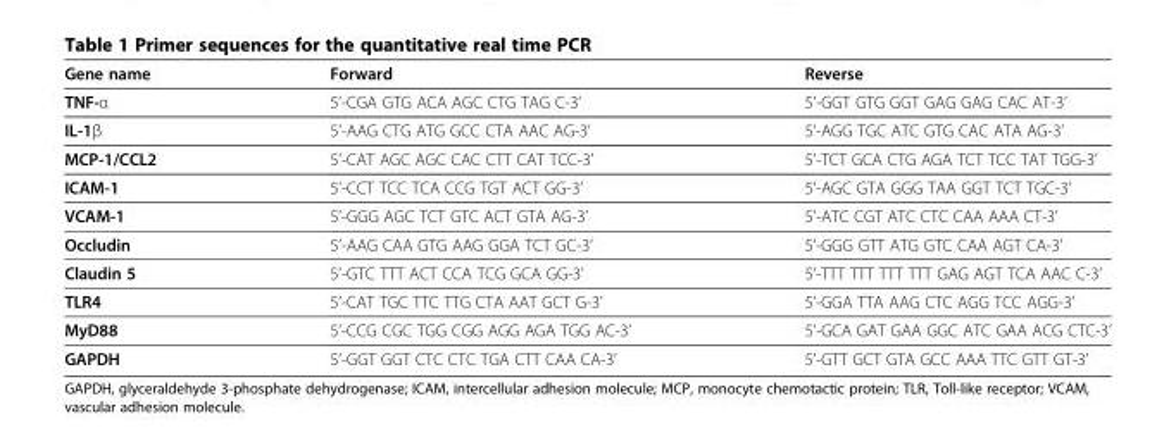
<table><thead><tr><td>Gene name</td><td>Forward</td><td>Reverse</td></tr></thead><tbody><tr><td>TNF-α</td><td>5’-CGA GTG ACA AGC CTG TAG C-3’</td><td>5’-GGT GTG GGT GAG GAG CAC AT-3’</td></tr><tr><td>IL-1β</td><td>5’-AAG CTG ATG GCC CTA AAC AG-3’</td><td>5’-AGG TGC ATC GTG CAC ATA AG-3’</td></tr><tr><td>MCP-1/CCL2</td><td>5’-CAT AGC AGC CAC CTT CAT TCC-3’</td><td>5’-TCT GCA CTG AGA TCT TCC TAT TGG-3’</td></tr><tr><td>ICAM-1</td><td>5’-CCT TCC TCA CCG TGT ACT GG-3’</td><td>5’-AGC GTA GGG TAA GGT TCT TGC-3’</td></tr><tr><td>VCAM-1</td><td>5’-GGG AGC TCT GTC ACT GTA AG-3’</td><td>5’-ATC CGT ATC CTC CAA AAA CT-3’</td></tr><tr><td>Occludin</td><td>5’-AAG CAA GTG AAG GGA TCT GC-3’</td><td>5’-GGG GTT ATG GTC CAA AGT CA-3’</td></tr><tr><td>Claudin 5</td><td>5’-GTC TTT ACT CCA TCG GCA GG-3’</td><td>5’-TTT TTT TTT TTT GAG AGT TCA AAC C-3’</td></tr><tr><td>TLR4</td><td>5’-CAT TGC TTC TTG CTA AAT GCT G-3’</td><td>5’-GGA TTA AAG CTC AGG TCC AGG-3’</td></tr><tr><td>MyD88</td><td>5’-CCG CGC TGG CGG AGG AGA TGG AC-3’</td><td>5’-GCA GAT GAA GGC ATC GAA ACG CTC-3’</td></tr><tr><td>GAPDH</td><td>5’-GGT GGT CTC CTC TGA CTT CAA CA-3’</td><td>5’-GTT GCT GTA GCC AAA TTC GTT GT-3’</td></tr></tbody></table>